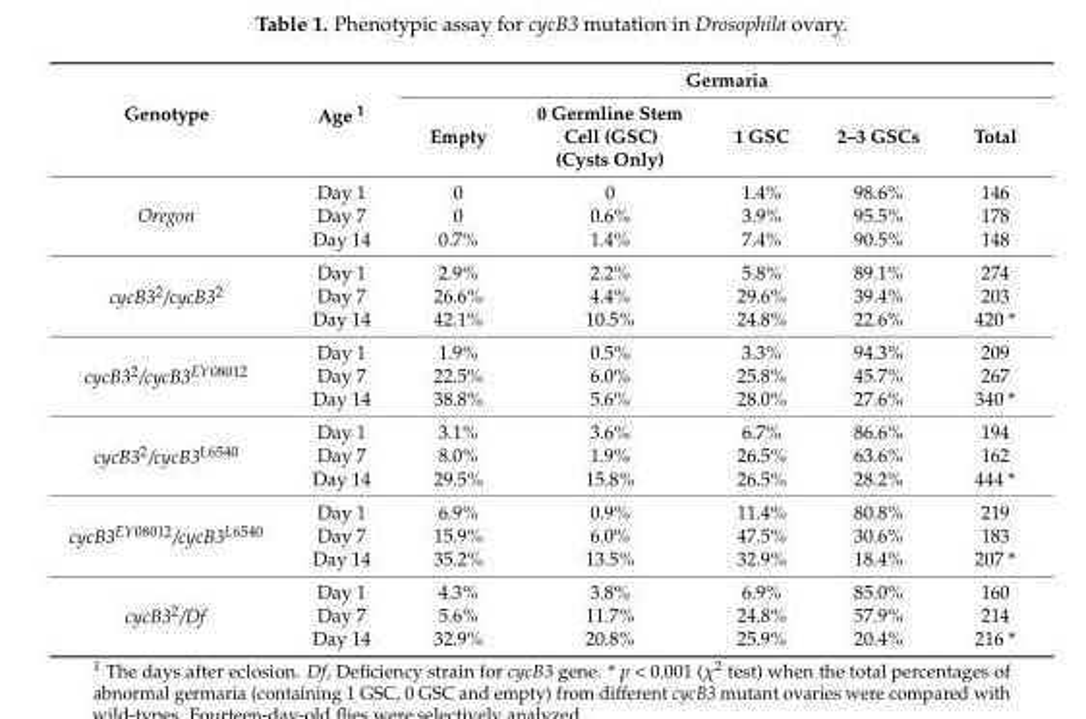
<table><thead><tr><td rowspan="2">Genotype</td><td rowspan="2">Age <sup>1</sup></td><td colspan="5">Germaria</td></tr><tr><td>Empty</td><td>0 Germline Stem Cell (GSC) (Cysts Only)</td><td>1 GSC</td><td>2–3 GSCs</td><td>Total</td></tr></thead><tbody><tr><td rowspan="3">Oregon</td><td>Day 1</td><td>0</td><td>0</td><td>1.4%</td><td>98.6%</td><td>146</td></tr><tr><td>Day 7</td><td>0</td><td>0.6%</td><td>3.9%</td><td>95.5%</td><td>178</td></tr><tr><td>Day 14</td><td>0.7%</td><td>1.4%</td><td>7.4%</td><td>90.5%</td><td>148</td></tr><tr><td rowspan="3">cycB3<sup>2</sup>/cycB3<sup>2</sup></td><td>Day 1</td><td>2.9%</td><td>2.2%</td><td>5.8%</td><td>89.1%</td><td>274</td></tr><tr><td>Day 7</td><td>26.6%</td><td>4.4%</td><td>29.6%</td><td>39.4%</td><td>203</td></tr><tr><td>Day 14</td><td>42.1%</td><td>10.5%</td><td>24.8%</td><td>22.6%</td><td>420 *</td></tr><tr><td rowspan="3">cycB3<sup>2</sup>/cycB3<sup>EY08012</sup></td><td>Day 1</td><td>1.9%</td><td>0.5%</td><td>3.3%</td><td>94.3%</td><td>209</td></tr><tr><td>Day 7</td><td>22.5%</td><td>6.0%</td><td>25.8%</td><td>45.7%</td><td>267</td></tr><tr><td>Day 14</td><td>38.8%</td><td>5.6%</td><td>28.0%</td><td>27.6%</td><td>340 *</td></tr><tr><td rowspan="3">cycB3<sup>2</sup>/cycB3<sup>L6540</sup></td><td>Day 1</td><td>3.1%</td><td>3.6%</td><td>6.7%</td><td>86.6%</td><td>194</td></tr><tr><td>Day 7</td><td>8.0%</td><td>1.9%</td><td>26.5%</td><td>63.6%</td><td>162</td></tr><tr><td>Day 14</td><td>29.5%</td><td>15.8%</td><td>26.5%</td><td>28.2%</td><td>444 *</td></tr><tr><td rowspan="3">cycB3<sup>EY08012</sup>/cycB3<sup>L6540</sup></td><td>Day 1</td><td>6.9%</td><td>0.9%</td><td>11.4%</td><td>80.8%</td><td>219</td></tr><tr><td>Day 7</td><td>15.9%</td><td>6.0%</td><td>47.5%</td><td>30.6%</td><td>183</td></tr><tr><td>Day 14</td><td>35.2%</td><td>13.5%</td><td>32.9%</td><td>18.4%</td><td>207 *</td></tr><tr><td rowspan="3">cycB3<sup>2</sup>/Df</td><td>Day 1</td><td>4.3%</td><td>3.8%</td><td>6.9%</td><td>85.0%</td><td>160</td></tr><tr><td>Day 7</td><td>5.6%</td><td>11.7%</td><td>24.8%</td><td>57.9%</td><td>214</td></tr><tr><td>Day 14</td><td>32.9%</td><td>20.8%</td><td>25.9%</td><td>20.4%</td><td>216 *</td></tr></tbody></table>